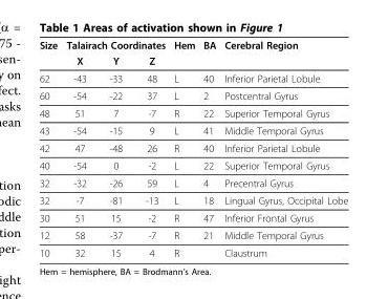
<table><thead><tr><td rowspan="2">Size</td><td colspan="3">Talairach Coordinates</td><td rowspan="2">Hem</td><td rowspan="2">BA</td><td rowspan="2">Cerebral Region</td></tr><tr><td>X</td><td>Y</td><td>Z</td></tr></thead><tbody><tr><td>62</td><td>-43</td><td>-33</td><td>48</td><td>L</td><td>40</td><td>Inferior Parietal Lobule</td></tr><tr><td>60</td><td>-54</td><td>-22</td><td>37</td><td>L</td><td>2</td><td>Postcentral Gyrus</td></tr><tr><td>48</td><td>51</td><td>7</td><td>-7</td><td>R</td><td>22</td><td>Superior Temporal Gyrus</td></tr><tr><td>43</td><td>-54</td><td>-15</td><td>9</td><td>L</td><td>41</td><td>Middle Temporal Gyrus</td></tr><tr><td>42</td><td>47</td><td>-48</td><td>26</td><td>R</td><td>40</td><td>Inferior Parietal Lobule</td></tr><tr><td>40</td><td>-54</td><td>0</td><td>-2</td><td>L</td><td>22</td><td>Superior Temporal Gyrus</td></tr><tr><td>32</td><td>-32</td><td>-26</td><td>59</td><td>L</td><td>4</td><td>Precentral Gyrus</td></tr><tr><td>32</td><td>-7</td><td>-81</td><td>-13</td><td>L</td><td>18</td><td>Lingual Gyrus, Occipital Lobe</td></tr><tr><td>30</td><td>51</td><td>15</td><td>-2</td><td>R</td><td>47</td><td>Inferior Frontal Gyrus</td></tr><tr><td>12</td><td>58</td><td>-37</td><td>-7</td><td>R</td><td>21</td><td>Middle Temporal Gyrus</td></tr><tr><td>10</td><td>32</td><td>15</td><td>4</td><td>R</td><td></td><td>Claustrum</td></tr></tbody></table>